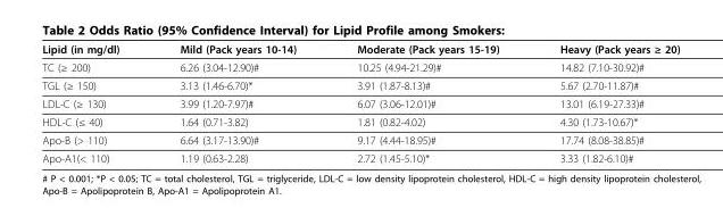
<table><thead><tr><td>Lipid (in mg/dl)</td><td>Mild (Pack years 10-14)</td><td>Moderate (Pack years 15-19)</td><td>Heavy (Pack years ≥ 20)</td></tr></thead><tbody><tr><td>TC (≥ 200)</td><td>6.26 (3.04-12.90)#</td><td>10.25 (4.94-21.29)#</td><td>14.82 (7.10-30.92)#</td></tr><tr><td>TGL (≥ 150)</td><td>3.13 (1.46-6.70)*</td><td>3.91 (1.87-8.13)#</td><td>5.67 (2.70-11.87)#</td></tr><tr><td>LDL-C (≥ 130)</td><td>3.99 (1.20-7.97)#</td><td>6.07 (3.06-12.01)#</td><td>13.01 (6.19-27.33)#</td></tr><tr><td>HDL-C (≤ 40)</td><td>1.64 (0.71-3.82)</td><td>1.81 (0.82-4.02)</td><td>4.30 (1.73-10.67)*</td></tr><tr><td>Apo-B (&gt; 110)</td><td>6.64 (3.17-13.90)#</td><td>9.17 (4.44-18.95)#</td><td>17.74 (8.08-38.85)#</td></tr><tr><td>Apo-A1(&lt; 110)</td><td>1.19 (0.63-2.28)</td><td>2.72 (1.45-5.10)*</td><td>3.33 (1.82-6.10)#</td></tr></tbody></table>